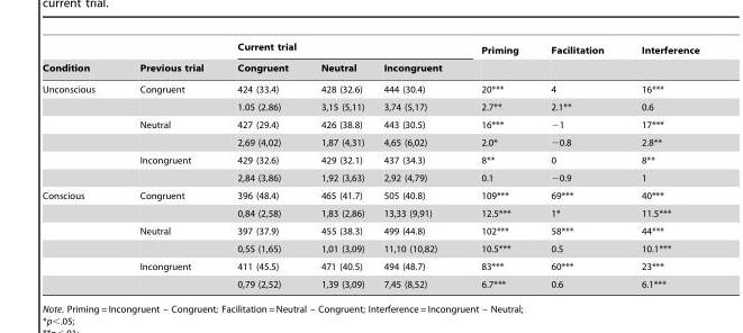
<table><thead><tr><td rowspan="2">Condition</td><td rowspan="2">Previous trial</td><td colspan="3">Current trial</td><td rowspan="2">Priming</td><td rowspan="2">Facilitation</td><td rowspan="2">Interference</td></tr><tr><td>Congruent</td><td>Neutral</td><td>Incongruent</td></tr></thead><tbody><tr><td rowspan="6">Unconscious</td><td>Congruent</td><td>424 (33.4)</td><td>428 (32.6)</td><td>444 (30.4)</td><td>20***</td><td>4</td><td>16***</td></tr><tr><td></td><td>1.05 (2.86)</td><td>3,15 (5,11)</td><td>3,74 (5,17)</td><td>2.7**</td><td>2.1**</td><td>0.6</td></tr><tr><td>Neutral</td><td>427 (29.4)</td><td>426 (38.8)</td><td>443 (30.5)</td><td>16***</td><td>−1</td><td>17***</td></tr><tr><td></td><td>2,69 (4,02)</td><td>1,87 (4,31)</td><td>4,65 (6,02)</td><td>2.0*</td><td>−0.8</td><td>2.8**</td></tr><tr><td>Incongruent</td><td>429 (32.6)</td><td>429 (32.1)</td><td>437 (34.3)</td><td>8**</td><td>0</td><td>8**</td></tr><tr><td></td><td>2,84 (3,86)</td><td>1,92 (3,63)</td><td>2,92 (4,79)</td><td>0.1</td><td>−0.9</td><td>1</td></tr><tr><td rowspan="6">Conscious</td><td>Congruent</td><td>396 (48.4)</td><td>465 (41.7)</td><td>505 (40.8)</td><td>109***</td><td>69***</td><td>40***</td></tr><tr><td></td><td>0,84 (2,58)</td><td>1,83 (2,86)</td><td>13,33 (9,91)</td><td>12.5***</td><td>1*</td><td>11.5***</td></tr><tr><td>Neutral</td><td>397 (37.9)</td><td>455 (38.3)</td><td>499 (44.8)</td><td>102***</td><td>58***</td><td>44***</td></tr><tr><td></td><td>0,55 (1,65)</td><td>1,01 (3,09)</td><td>11,10 (10,82)</td><td>10.5***</td><td>0.5</td><td>10.1***</td></tr><tr><td>Incongruent</td><td>411 (45.5)</td><td>471 (40.5)</td><td>494 (48.7)</td><td>83***</td><td>60***</td><td>23***</td></tr><tr><td></td><td>0,79 (2,52)</td><td>1,39 (3,09)</td><td>7,45 (8,52)</td><td>6.7***</td><td>0.6</td><td>6.1***</td></tr></tbody></table>